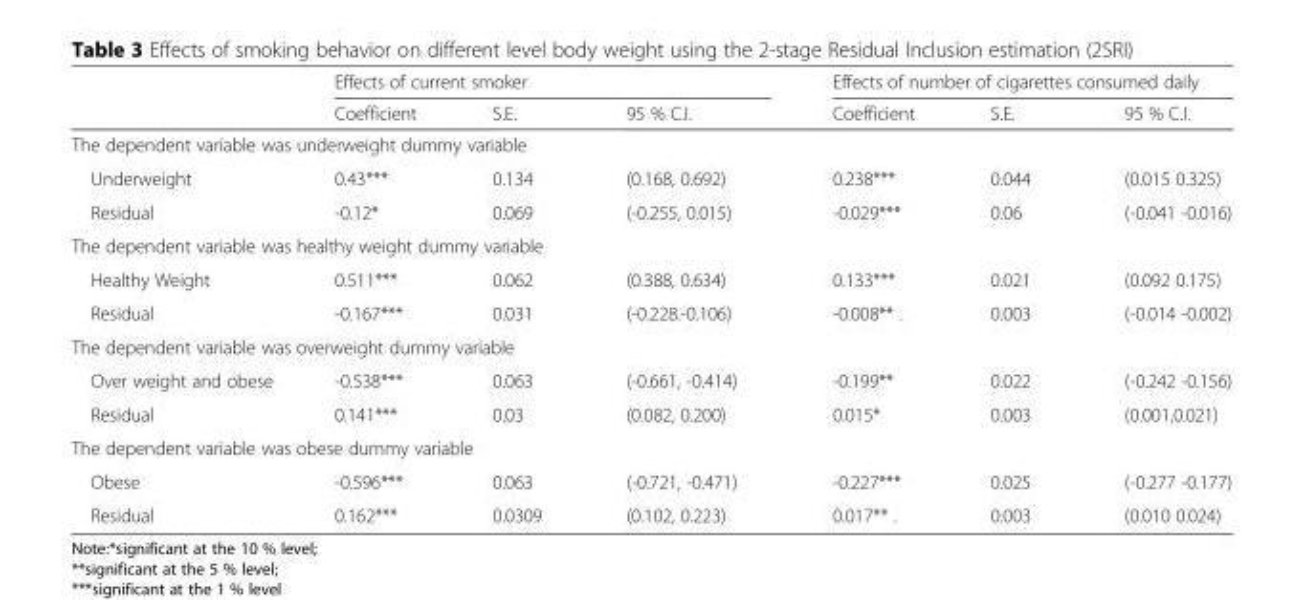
<table><thead><tr><td rowspan="2"></td><td colspan="3">Effects of current smoker</td><td colspan="3">Effects of number of cigarettes consumed daily</td></tr><tr><td>Coefficient</td><td>S.E.</td><td>95 % C.I.</td><td>Coefficient</td><td>S.E.</td><td>95 % C.I.</td></tr></thead><tbody><tr><td colspan="7">The dependent variable was underweight dummy variable</td></tr><tr><td>Underweight</td><td>0.43***</td><td>0.134</td><td>(0.168, 0.692)</td><td>0.238***</td><td>0.044</td><td>(0.015 0.325)</td></tr><tr><td>Residual</td><td>-0.12*</td><td>0.069</td><td>(-0.255, 0.015)</td><td>-0.029***</td><td>0.06</td><td>(-0.041 -0.016)</td></tr><tr><td colspan="7">The dependent variable was healthy weight dummy variable</td></tr><tr><td>Healthy Weight</td><td>0.511***</td><td>0.062</td><td>(0.388, 0.634)</td><td>0.133***</td><td>0.021</td><td>(0.092 0.175)</td></tr><tr><td>Residual</td><td>-0.167***</td><td>0.031</td><td>(-0.228.-0.106)</td><td>-0.008** .</td><td>0.003</td><td>(-0.014 -0.002)</td></tr><tr><td colspan="7">The dependent variable was overweight dummy variable</td></tr><tr><td>Over weight and obese</td><td>-0.538***</td><td>0.063</td><td>(-0.661, -0.414)</td><td>-0.199**</td><td>0.022</td><td>(-0.242 -0.156)</td></tr><tr><td>Residual</td><td>0.141***</td><td>0.03</td><td>(0.082, 0.200)</td><td>0.015*</td><td>0.003</td><td>(0.001,0.021)</td></tr><tr><td colspan="7">The dependent variable was obese dummy variable</td></tr><tr><td>Obese</td><td>-0.596***</td><td>0.063</td><td>(-0.721, -0.471)</td><td>-0.227***</td><td>0.025</td><td>(-0.277 -0.177)</td></tr><tr><td>Residual</td><td>0.162***</td><td>0.0309</td><td>(0.102, 0.223)</td><td>0.017** .</td><td>0.003</td><td>(0.010 0.024)</td></tr></tbody></table>